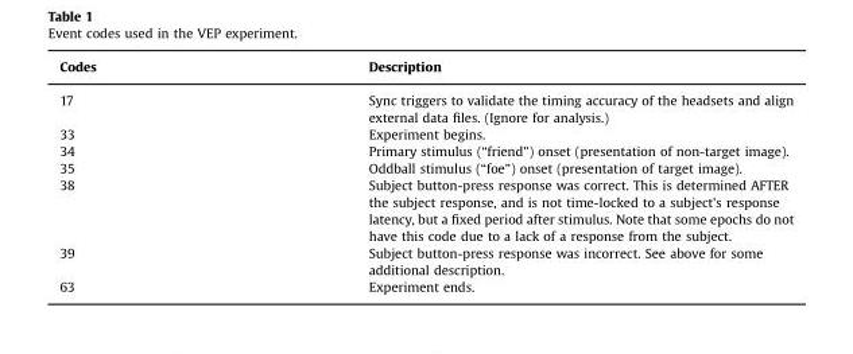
<table><thead><tr><td>Codes</td><td>Description</td></tr></thead><tbody><tr><td>17</td><td>Sync triggers to validate the timing accuracy of the headsets and align external data files. (Ignore for analysis.)</td></tr><tr><td>33</td><td>Experiment begins.</td></tr><tr><td>34</td><td>Primary stimulus (“friend”) onset (presentation of non-target image).</td></tr><tr><td>35</td><td>Oddball stimulus (“foe”) onset (presentation of target image).</td></tr><tr><td>38</td><td>Subject button-press response was correct. This is determined AFTER the subject response, and is not time-locked to a subject&#x27;s response latency, but a fixed period after stimulus. Note that some epochs do not have this code due to a lack of a response from the subject.</td></tr><tr><td>39</td><td>Subject button-press response was incorrect. See above for some additional description.</td></tr><tr><td>63</td><td>Experiment ends.</td></tr></tbody></table>